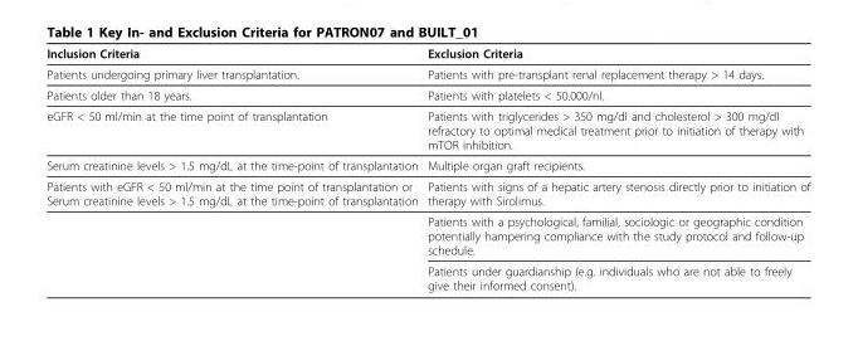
<table><thead><tr><td>Inclusion Criteria</td><td>Exclusion Criteria</td></tr></thead><tbody><tr><td>Patients undergoing primary liver transplantation.</td><td>Patients with pre-transplant renal replacement therapy &gt; 14 days.</td></tr><tr><td>Patients older than 18 years.</td><td>Patients with platelets &lt; 50.000/nl.</td></tr><tr><td>eGFR &lt; 50 ml/min at the time point of transplantation</td><td>Patients with triglycerides &gt; 350 mg/dl and cholesterol &gt; 300 mg/dl refractory to optimal medical treatment prior to initiation of therapy with mTOR inhibition.</td></tr><tr><td>Serum creatinine levels &gt; 1.5 mg/dL at the time-point of transplantation</td><td>Multiple organ graft recipients.</td></tr><tr><td rowspan="3">Patients with eGFR &lt; 50 ml/min at the time point of transplantation or Serum creatinine levels &gt; 1.5 mg/dL at the time-point of transplantation</td><td>Patients with signs of a hepatic artery stenosis directly prior to initiation of therapy with Sirolimus.</td></tr><tr><td>Patients with a psychological, familial, sociologic or geographic condition potentially hampering compliance with the study protocol and follow-up schedule.</td></tr><tr><td>Patients under guardianship (e.g. individuals who are not able to freely give their informed consent).</td></tr></tbody></table>